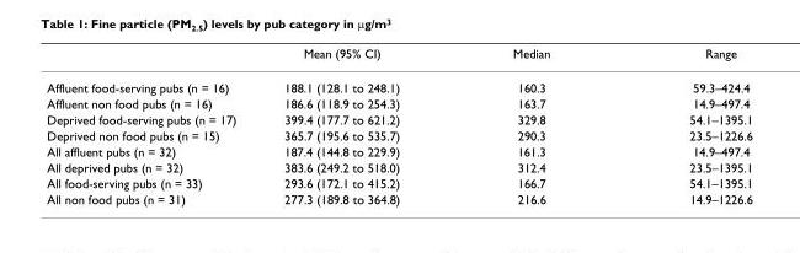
<table><thead><tr><td></td><td>Mean (95% CI)</td><td>Median</td><td>Range</td></tr></thead><tbody><tr><td>Affluent food-serving pubs (n = 16)</td><td>188.1 (128.1 to 248.1)</td><td>160.3</td><td>59.3–424.4</td></tr><tr><td>Affluent non food pubs (n = 16)</td><td>186.6 (118.9 to 254.3)</td><td>163.7</td><td>14.9–497.4</td></tr><tr><td>Deprived food-serving pubs (n = 17)</td><td>399.4 (177.7 to 621.2)</td><td>329.8</td><td>54.1–1395.1</td></tr><tr><td>Deprived non food pubs (n = 15)</td><td>365.7 (195.6 to 535.7)</td><td>290.3</td><td>23.5–1226.6</td></tr><tr><td>All affluent pubs (n = 32)</td><td>187.4 (144.8 to 229.9)</td><td>161.3</td><td>14.9–497.4</td></tr><tr><td>All deprived pubs (n = 32)</td><td>383.6 (249.2 to 518.0)</td><td>312.4</td><td>23.5–1395.1</td></tr><tr><td>All food-serving pubs (n = 33)</td><td>293.6 (172.1 to 415.2)</td><td>166.7</td><td>54.1–1395.1</td></tr><tr><td>All non food pubs (n = 31)</td><td>277.3 (189.8 to 364.8)</td><td>216.6</td><td>14.9–1226.6</td></tr></tbody></table>